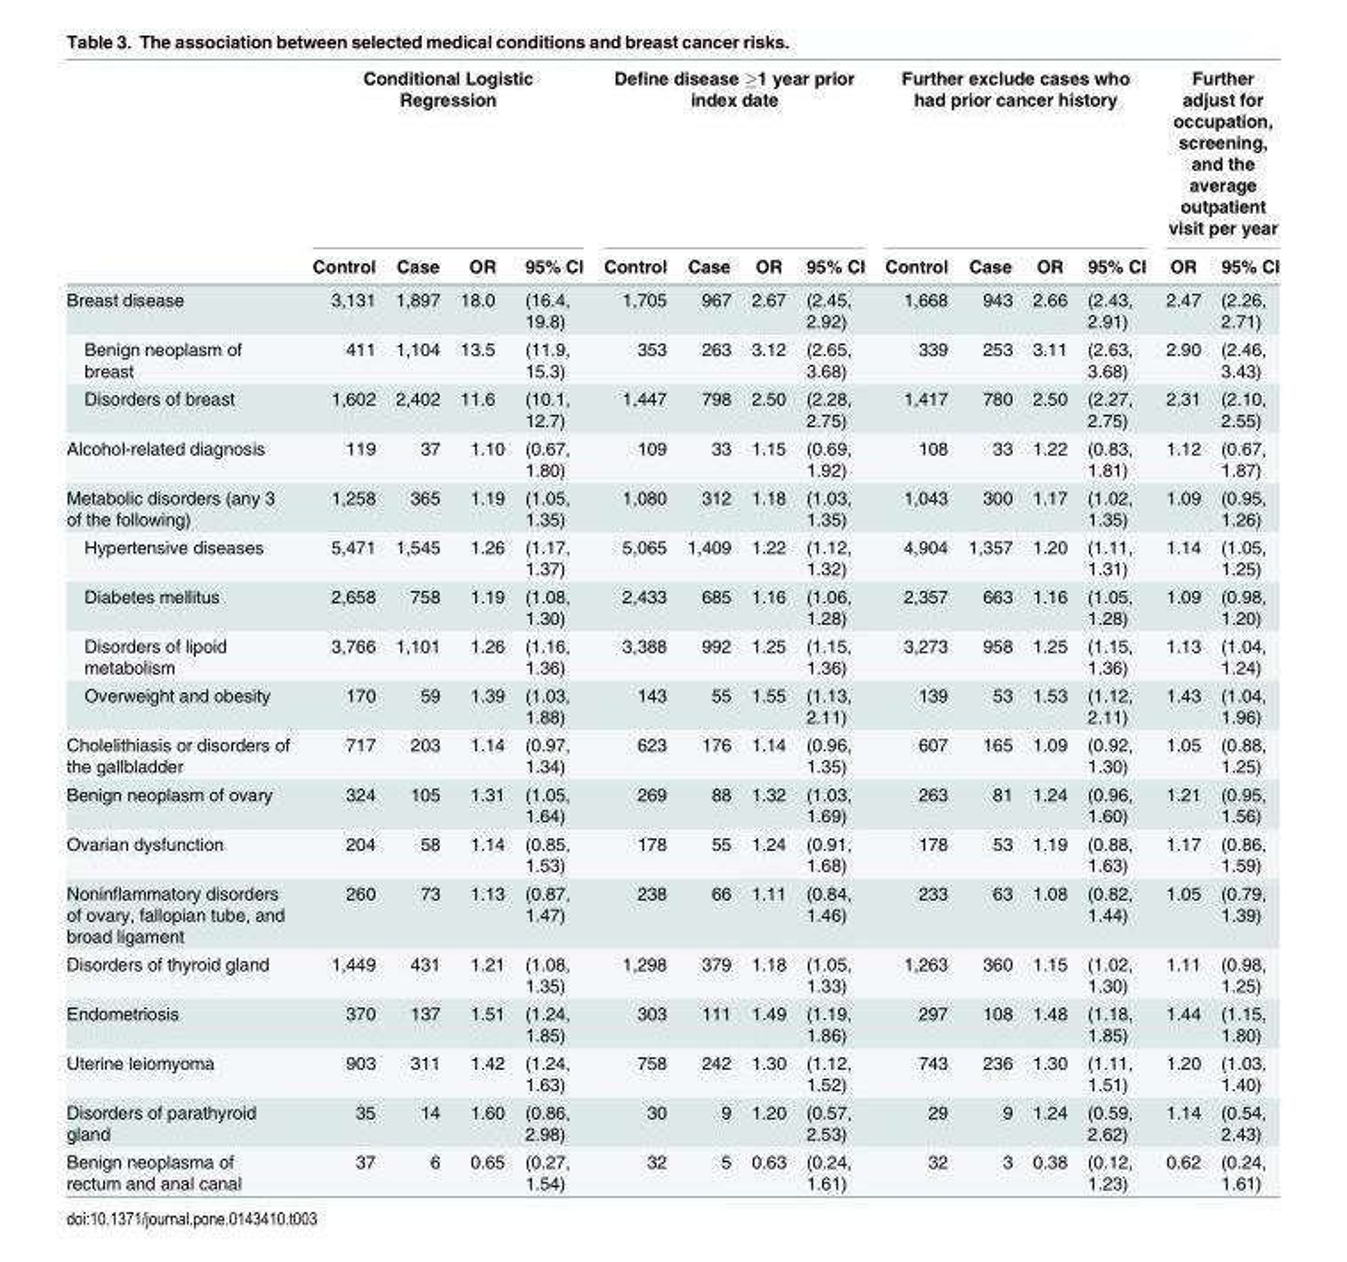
<table><thead><tr><td rowspan="2"></td><td colspan="4">Conditional Logistic Regression</td><td colspan="4">Define disease ≥1 year prior index date</td><td colspan="4">Further exclude cases who had prior cancer history</td><td colspan="2">Further adjust for occupation, screening, and the average outpatient visit per year</td></tr><tr><td>Control</td><td>Case</td><td>OR</td><td>95% CI</td><td>Control</td><td>Case</td><td>OR</td><td>95% CI</td><td>Control</td><td>Case</td><td>OR</td><td>95% CI</td><td>OR</td><td>95% CI</td></tr></thead><tbody><tr><td>Breast disease</td><td>3,131</td><td>1,897</td><td>18.0</td><td>(16.4, 19.8)</td><td>1,705</td><td>967</td><td>2.67</td><td>(2.45, 2.92)</td><td>1,668</td><td>943</td><td>2.66</td><td>(2.43, 2.91)</td><td>2.47</td><td>(2.26, 2.71)</td></tr><tr><td>Benign neoplasm of breast</td><td>411</td><td>1,104</td><td>13.5</td><td>(11.9, 15.3)</td><td>353</td><td>263</td><td>3.12</td><td>(2.65, 3.68)</td><td>339</td><td>253</td><td>3.11</td><td>(2.63, 3.68)</td><td>2.90</td><td>(2.46, 3.43)</td></tr><tr><td>Disorders of breast</td><td>1,602</td><td>2,402</td><td>11.6</td><td>(10.1, 12.7)</td><td>1,447</td><td>798</td><td>2.50</td><td>(2.28, 2.75)</td><td>1,417</td><td>780</td><td>2.50</td><td>(2.27, 2.75)</td><td>2.31</td><td>(2.10, 2.55)</td></tr><tr><td>Alcohol-related diagnosis</td><td>119</td><td>37</td><td>1.10</td><td>(0.67, 1.80)</td><td>109</td><td>33</td><td>1.15</td><td>(0.69, 1.92)</td><td>108</td><td>33</td><td>1.22</td><td>(0.83, 1.81)</td><td>1.12</td><td>(0.67, 1.87)</td></tr><tr><td>Metabolic disorders (any 3 of the following)</td><td>1,258</td><td>365</td><td>1.19</td><td>(1.05, 1.35)</td><td>1,080</td><td>312</td><td>1.18</td><td>(1.03, 1.35)</td><td>1,043</td><td>300</td><td>1.17</td><td>(1.02, 1.35)</td><td>1.09</td><td>(0.95, 1.26)</td></tr><tr><td>Hypertensive diseases</td><td>5,471</td><td>1,545</td><td>1.26</td><td>(1.17, 1.37)</td><td>5,065</td><td>1,409</td><td>1.22</td><td>(1.12, 1.32)</td><td>4,904</td><td>1,357</td><td>1.20</td><td>(1.11, 1.31)</td><td>1.14</td><td>(1.05, 1.25)</td></tr><tr><td>Diabetes mellitus</td><td>2,658</td><td>758</td><td>1.19</td><td>(1.08, 1.30)</td><td>2,433</td><td>685</td><td>1.16</td><td>(1.06, 1.28)</td><td>2,357</td><td>663</td><td>1.16</td><td>(1.05, 1.28)</td><td>1.09</td><td>(0.98, 1.20)</td></tr><tr><td>Disorders of lipoid metabolism</td><td>3,766</td><td>1,101</td><td>1.26</td><td>(1.16, 1.36)</td><td>3,388</td><td>992</td><td>1.25</td><td>(1.15, 1.36)</td><td>3,273</td><td>958</td><td>1.25</td><td>(1.15, 1.36)</td><td>1.13</td><td>(1.04, 1.24)</td></tr><tr><td>Overweight and obesity</td><td>170</td><td>59</td><td>1.39</td><td>(1.03, 1.88)</td><td>143</td><td>55</td><td>1.55</td><td>(1.13, 2.11)</td><td>139</td><td>53</td><td>1.53</td><td>(1.12, 2.11)</td><td>1.43</td><td>(1.04, 1.96)</td></tr><tr><td>Cholelithiasis or disorders of the gallbladder</td><td>717</td><td>203</td><td>1.14</td><td>(0.97, 1.34)</td><td>623</td><td>176</td><td>1.14</td><td>(0.96, 1.35)</td><td>607</td><td>165</td><td>1.09</td><td>(0.92, 1.30)</td><td>1.05</td><td>(0.88, 1.25)</td></tr><tr><td>Benign neoplasm of ovary</td><td>324</td><td>105</td><td>1.31</td><td>(1.05, 1.64)</td><td>269</td><td>88</td><td>1.32</td><td>(1.03, 1.69)</td><td>263</td><td>81</td><td>1.24</td><td>(0.96, 1.60)</td><td>1.21</td><td>(0.95, 1.56)</td></tr><tr><td>Ovarian dysfunction</td><td>204</td><td>58</td><td>1.14</td><td>(0.85, 1.53)</td><td>178</td><td>55</td><td>1.24</td><td>(0.91, 1.68)</td><td>178</td><td>53</td><td>1.19</td><td>(0.88, 1.63)</td><td>1.17</td><td>(0.86, 1.59)</td></tr><tr><td>Noninflammatory disorders of ovary, fallopian tube, and broad ligament</td><td>260</td><td>73</td><td>1.13</td><td>(0.87, 1.47)</td><td>238</td><td>66</td><td>1.11</td><td>(0.84, 1.46)</td><td>233</td><td>63</td><td>1.08</td><td>(0.82, 1.44)</td><td>1.05</td><td>(0.79, 1.39)</td></tr><tr><td>Disorders of thyroid gland</td><td>1,449</td><td>431</td><td>1.21</td><td>(1.08, 1.35)</td><td>1,298</td><td>379</td><td>1.18</td><td>(1.05, 1.33)</td><td>1,263</td><td>360</td><td>1.15</td><td>(1.02, 1.30)</td><td>1.11</td><td>(0.98, 1.25)</td></tr><tr><td>Endometriosis</td><td>370</td><td>137</td><td>1.51</td><td>(1.24, 1.85)</td><td>303</td><td>111</td><td>1.49</td><td>(1.19, 1.86)</td><td>297</td><td>108</td><td>1.48</td><td>(1.18, 1.85)</td><td>1.44</td><td>(1.15, 1.80)</td></tr><tr><td>Uterine leiomyoma</td><td>903</td><td>311</td><td>1.42</td><td>(1.24, 1.63)</td><td>758</td><td>242</td><td>1.30</td><td>(1.12, 1.52)</td><td>743</td><td>236</td><td>1.30</td><td>(1.11, 1.51)</td><td>1.20</td><td>(1.03, 1.40)</td></tr><tr><td>Disorders of parathyroid gland</td><td>35</td><td>14</td><td>1.60</td><td>(0.86, 2.98)</td><td>30</td><td>9</td><td>1.20</td><td>(0.57, 2.53)</td><td>29</td><td>9</td><td>1.24</td><td>(0.59, 2.62)</td><td>1.14</td><td>(0.54, 2.43)</td></tr><tr><td>Benign neoplasma of rectum and anal canal</td><td>37</td><td>6</td><td>0.65</td><td>(0.27, 1.54)</td><td>32</td><td>5</td><td>0.63</td><td>(0.24, 1.61)</td><td>32</td><td>3</td><td>0.38</td><td>(0.12, 1.23)</td><td>0.62</td><td>(0.24, 1.61)</td></tr></tbody></table>